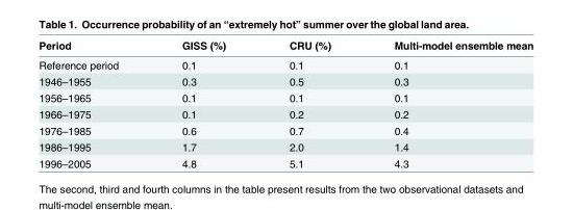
<table><thead><tr><td>Period</td><td>GISS (%)</td><td>CRU (%)</td><td>Multi-model ensemble mean</td></tr></thead><tbody><tr><td>Reference period</td><td>0.1</td><td>0.1</td><td>0.1</td></tr><tr><td>1946–1955</td><td>0.3</td><td>0.5</td><td>0.3</td></tr><tr><td>1956–1965</td><td>0.1</td><td>0.1</td><td>0.1</td></tr><tr><td>1966–1975</td><td>0.1</td><td>0.2</td><td>0.2</td></tr><tr><td>1976–1985</td><td>0.6</td><td>0.7</td><td>0.4</td></tr><tr><td>1986–1995</td><td>1.7</td><td>2.0</td><td>1.4</td></tr><tr><td>1996–2005</td><td>4.8</td><td>5.1</td><td>4.3</td></tr></tbody></table>